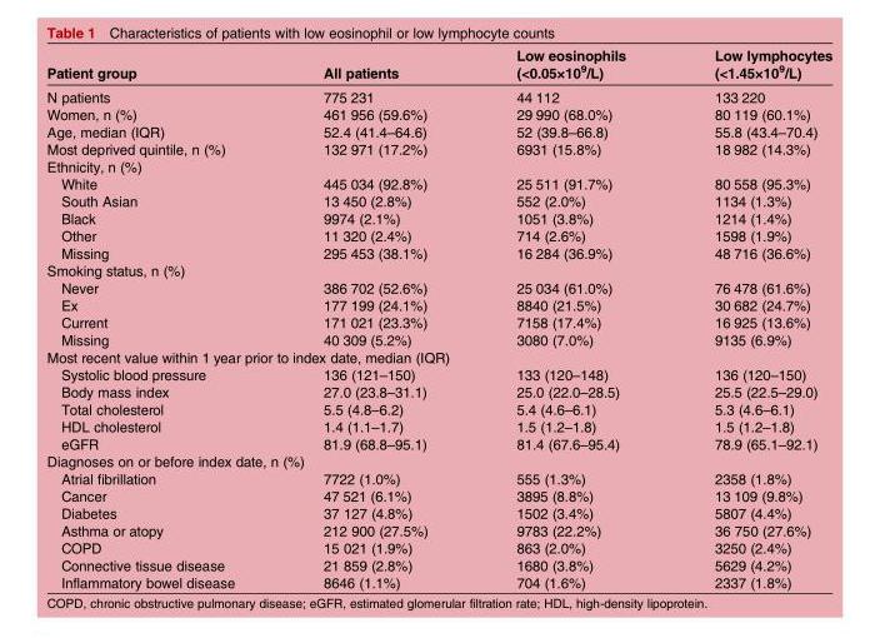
<table><thead><tr><td>Patient group</td><td>All patients</td><td>Low eosinophils (&lt;0.05×10<sup>9</sup>/L)</td><td>Low lymphocytes (&lt;1.45×10<sup>9</sup>/L)</td></tr></thead><tbody><tr><td>N patients</td><td>775 231</td><td>44 112</td><td>133 220</td></tr><tr><td>Women, n (%)</td><td>461 956 (59.6%)</td><td>29 990 (68.0%)</td><td>80 119 (60.1%)</td></tr><tr><td>Age, median (IQR)</td><td>52.4 (41.4–64.6)</td><td>52 (39.8–66.8)</td><td>55.8 (43.4–70.4)</td></tr><tr><td>Most deprived quintile, n (%)</td><td>132 971 (17.2%)</td><td>6931 (15.8%)</td><td>18 982 (14.3%)</td></tr><tr><td colspan="4">Ethnicity, n (%)</td></tr><tr><td>White</td><td>445 034 (92.8%)</td><td>25 511 (91.7%)</td><td>80 558 (95.3%)</td></tr><tr><td>South Asian</td><td>13 450 (2.8%)</td><td>552 (2.0%)</td><td>1134 (1.3%)</td></tr><tr><td>Black</td><td>9974 (2.1%)</td><td>1051 (3.8%)</td><td>1214 (1.4%)</td></tr><tr><td>Other</td><td>11 320 (2.4%)</td><td>714 (2.6%)</td><td>1598 (1.9%)</td></tr><tr><td>Missing</td><td>295 453 (38.1%)</td><td>16 284 (36.9%)</td><td>48 716 (36.6%)</td></tr><tr><td colspan="4">Smoking status, n (%)</td></tr><tr><td>Never</td><td>386 702 (52.6%)</td><td>25 034 (61.0%)</td><td>76 478 (61.6%)</td></tr><tr><td>Ex</td><td>177 199 (24.1%)</td><td>8840 (21.5%)</td><td>30 682 (24.7%)</td></tr><tr><td>Current</td><td>171 021 (23.3%)</td><td>7158 (17.4%)</td><td>16 925 (13.6%)</td></tr><tr><td>Missing</td><td>40 309 (5.2%)</td><td>3080 (7.0%)</td><td>9135 (6.9%)</td></tr><tr><td colspan="4">Most recent value within 1 year prior to index date, median (IQR)</td></tr><tr><td>Systolic blood pressure</td><td>136 (121–150)</td><td>133 (120–148)</td><td>136 (120–150)</td></tr><tr><td>Body mass index</td><td>27.0 (23.8–31.1)</td><td>25.0 (22.0–28.5)</td><td>25.5 (22.5–29.0)</td></tr><tr><td>Total cholesterol</td><td>5.5 (4.8–6.2)</td><td>5.4 (4.6–6.1)</td><td>5.3 (4.6–6.1)</td></tr><tr><td>HDL cholesterol</td><td>1.4 (1.1–1.7)</td><td>1.5 (1.2–1.8)</td><td>1.5 (1.2–1.8)</td></tr><tr><td>eGFR</td><td>81.9 (68.8–95.1)</td><td>81.4 (67.6–95.4)</td><td>78.9 (65.1–92.1)</td></tr><tr><td colspan="4">Diagnoses on or before index date, n (%)</td></tr><tr><td>Atrial fibrillation</td><td>7722 (1.0%)</td><td>555 (1.3%)</td><td>2358 (1.8%)</td></tr><tr><td>Cancer</td><td>47 521 (6.1%)</td><td>3895 (8.8%)</td><td>13 109 (9.8%)</td></tr><tr><td>Diabetes</td><td>37 127 (4.8%)</td><td>1502 (3.4%)</td><td>5807 (4.4%)</td></tr><tr><td>Asthma or atopy</td><td>212 900 (27.5%)</td><td>9783 (22.2%)</td><td>36 750 (27.6%)</td></tr><tr><td>COPD</td><td>15 021 (1.9%)</td><td>863 (2.0%)</td><td>3250 (2.4%)</td></tr><tr><td>Connective tissue disease</td><td>21 859 (2.8%)</td><td>1680 (3.8%)</td><td>5629 (4.2%)</td></tr><tr><td>Inflammatory bowel disease</td><td>8646 (1.1%)</td><td>704 (1.6%)</td><td>2337 (1.8%)</td></tr></tbody></table>